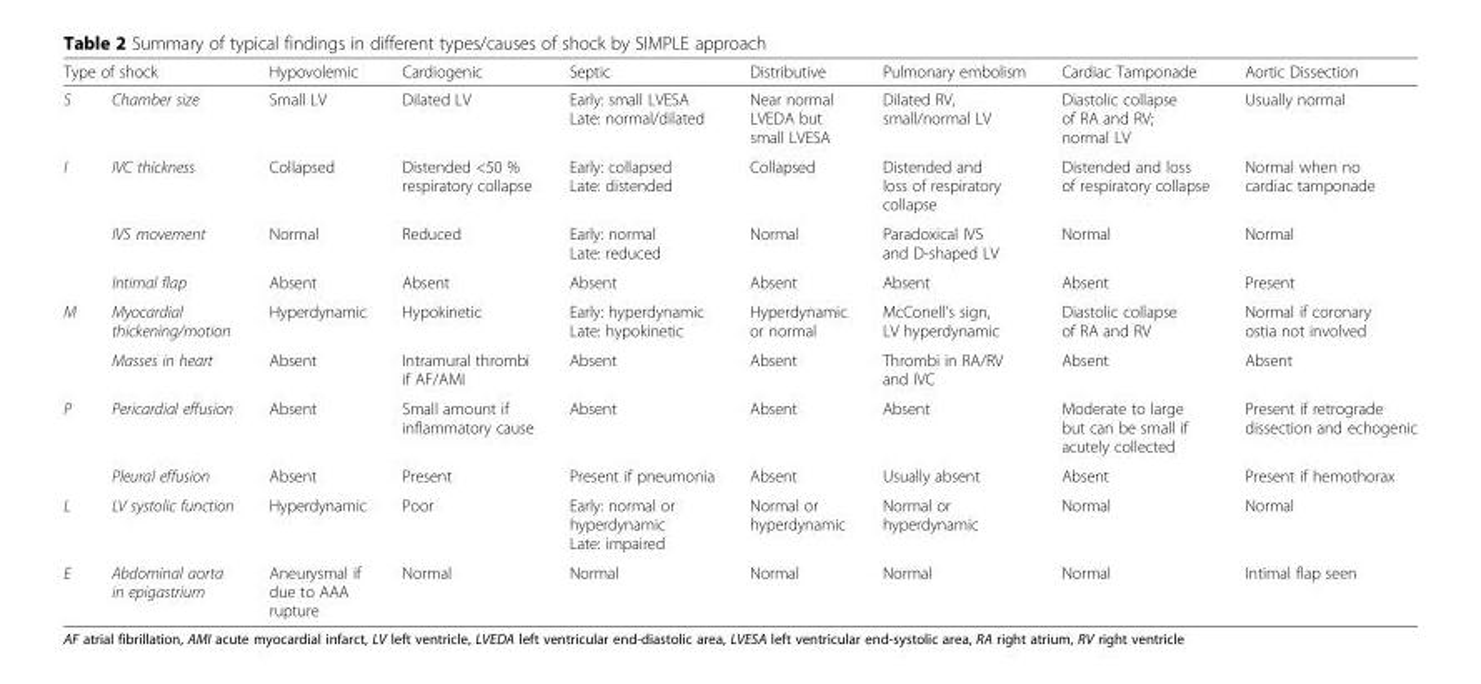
<table><thead><tr><td colspan="2">Type of shock</td><td rowspan="2">Hypovolemic Small LV</td><td rowspan="2">Cardiogenic Dilated LV</td><td rowspan="2">Septic Early: small LVESA Late: normal/dilated</td><td rowspan="2">Distributive Near normal LVEDA but small LVESA</td><td rowspan="2">Pulmonary embolism Dilated RV, small/normal LV</td><td rowspan="2">Cardiac Tamponade Diastolic collapse of RA and RV; normal LV</td><td rowspan="2">Aortic Dissection Usually normal</td></tr><tr><td>S</td><td>Chamber size</td></tr></thead><tbody><tr><td rowspan="3">I</td><td>IVC thickness</td><td>Collapsed</td><td>Distended &lt;50 % respiratory collapse</td><td>Early: collapsed Late: distended</td><td>Collapsed</td><td>Distended and loss of respiratory collapse</td><td>Distended and loss of respiratory collapse</td><td>Normal when no cardiac tamponade</td></tr><tr><td>IVS movement</td><td>Normal</td><td>Reduced</td><td>Early: normal Late: reduced</td><td>Normal</td><td>Paradoxical IVS and D-shaped LV</td><td>Normal</td><td>Normal</td></tr><tr><td>Intimal flap</td><td>Absent</td><td>Absent</td><td>Absent</td><td>Absent</td><td>Absent</td><td>Absent</td><td>Present</td></tr><tr><td rowspan="2">M</td><td>Myocardial thickening/motion</td><td>Hyperdynamic</td><td>Hypokinetic</td><td>Early: hyperdynamic Late: hypokinetic</td><td>Hyperdynamic or normal</td><td>McConell’s sign, LV hyperdynamic</td><td>Diastolic collapse of RA and RV</td><td>Normal if coronary ostia not involved</td></tr><tr><td>Masses in heart</td><td>Absent</td><td>Intramural thrombi if AF/AMI</td><td>Absent</td><td>Absent</td><td>Thrombi in RA/RV and IVC</td><td>Absent</td><td>Absent</td></tr><tr><td rowspan="2">P</td><td>Pericardial effusion</td><td>Absent</td><td>Small amount if inflammatory cause</td><td>Absent</td><td>Absent</td><td>Absent</td><td>Moderate to large but can be small if acutely collected</td><td>Present if retrograde dissection and echogenic</td></tr><tr><td>Pleural effusion</td><td>Absent</td><td>Present</td><td>Present if pneumonia</td><td>Absent</td><td>Usually absent</td><td>Absent</td><td>Present if hemothorax</td></tr><tr><td>L</td><td>LV systolic function</td><td>Hyperdynamic</td><td>Poor</td><td>Early: normal or hyperdynamic Late: impaired</td><td>Normal or hyperdynamic</td><td>Normal or hyperdynamic</td><td>Normal</td><td>Normal</td></tr><tr><td>E</td><td>Abdominal aorta in epigastrium</td><td>Aneurysmal if due to AAA rupture</td><td>Normal</td><td>Normal</td><td>Normal</td><td>Normal</td><td>Normal</td><td>Intimal flap seen</td></tr></tbody></table>